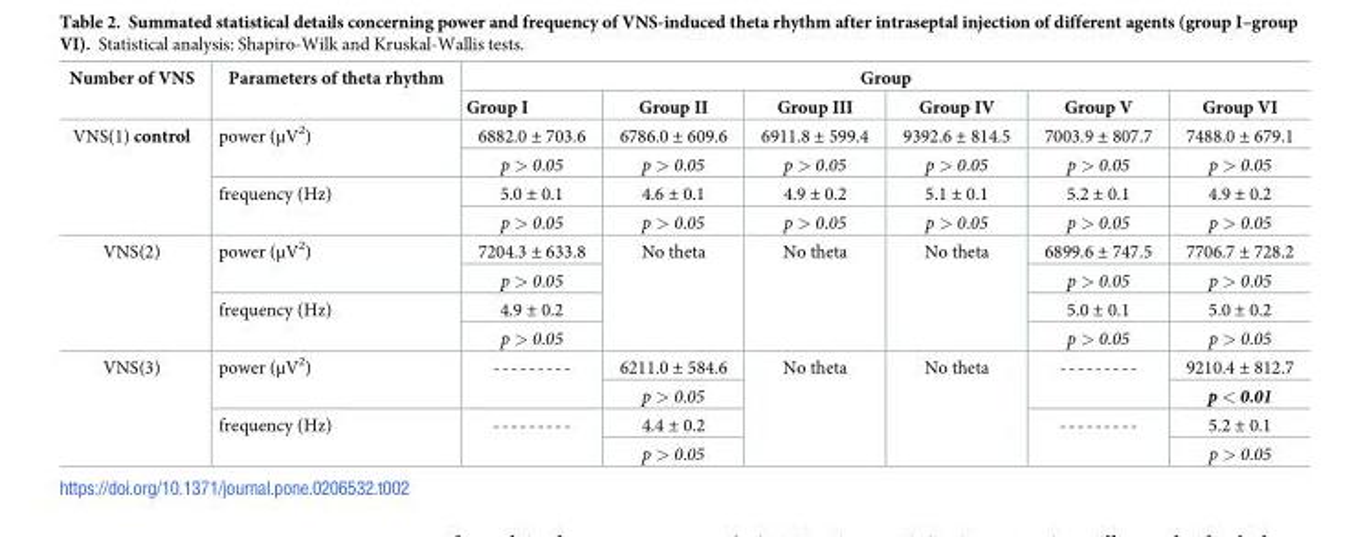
<table><thead><tr><td rowspan="2">Number of VNS</td><td rowspan="2">Parameters of theta rhythm</td><td colspan="6">Group</td></tr><tr><td>Group I</td><td>Group II</td><td>Group III</td><td>Group IV</td><td>Group V</td><td>Group VI</td></tr></thead><tbody><tr><td rowspan="4">VNS(1) control</td><td rowspan="2">power (μV<sup>2</sup>)</td><td>6882.0 ± 703.6</td><td>6786.0 ± 609.6</td><td>6911.8 ± 599.4</td><td>9392.6 ± 814.5</td><td>7003.9 ± 807.7</td><td>7488.0 ± 679.1</td></tr><tr><td>p &gt; 0.05</td><td>p &gt; 0.05</td><td>p &gt; 0.05</td><td>p &gt; 0.05</td><td>p &gt; 0.05</td><td>p &gt; 0.05</td></tr><tr><td rowspan="2">frequency (Hz)</td><td>5.0 ± 0.1</td><td>4.6 ± 0.1</td><td>4.9 ± 0.2</td><td>5.1 ± 0.1</td><td>5.2 ± 0.1</td><td>4.9 ± 0.2</td></tr><tr><td>p &gt; 0.05</td><td>p &gt; 0.05</td><td>p &gt; 0.05</td><td>p &gt; 0.05</td><td>p &gt; 0.05</td><td>p &gt; 0.05</td></tr><tr><td rowspan="4">VNS(2)</td><td rowspan="2">power (μV<sup>2</sup>)</td><td>7204.3 ± 633.8</td><td rowspan="4">No theta</td><td rowspan="4">No theta</td><td rowspan="4">No theta</td><td>6899.6 ± 747.5</td><td>7706.7 ± 728.2</td></tr><tr><td>p &gt; 0.05</td><td>p &gt; 0.05</td><td>p &gt; 0.05</td></tr><tr><td rowspan="2">frequency (Hz)</td><td>4.9 ± 0.2</td><td>5.0 ± 0.1</td><td>5.0 ± 0.2</td></tr><tr><td>p &gt; 0.05</td><td>p &gt; 0.05</td><td>p &gt; 0.05</td></tr><tr><td rowspan="4">VNS(3)</td><td rowspan="2">power (μV<sup>2</sup>)</td><td rowspan="2">---------</td><td>6211.0 ± 584.6</td><td rowspan="4">No theta</td><td rowspan="4">No theta</td><td rowspan="2">---------</td><td>9210.4 ± 812.7</td></tr><tr><td>p &gt; 0.05</td><td>p &lt; 0.01</td></tr><tr><td rowspan="2">frequency (Hz)</td><td rowspan="2">---------</td><td>4.4 ± 0.2</td><td rowspan="2">---------</td><td>5.2 ± 0.1</td></tr><tr><td>p &gt; 0.05</td><td>p &gt; 0.05</td></tr></tbody></table>